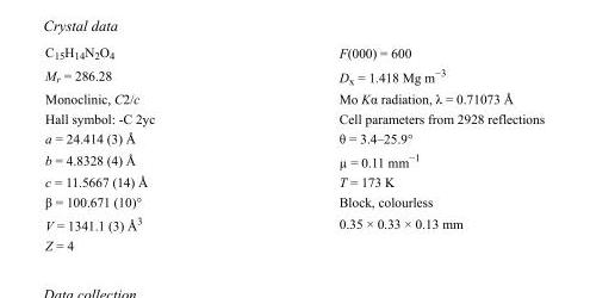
<table><tbody><tr><td>C<sub>15</sub>H<sub>14</sub>N<sub>2</sub>O<sub>4</sub></td><td>F(000) = 600</td></tr><tr><td>M<sub>r</sub> = 286.28</td><td>D<sub>x</sub> = 1.418 Mg m<sup>−3</sup></td></tr><tr><td>Monoclinic, C2/c</td><td>Mo Kα radiation, λ = 0.71073 Å</td></tr><tr><td>Hall symbol: -C 2yc</td><td>Cell parameters from 2928 reflections</td></tr><tr><td>a = 24.414 (3) Å</td><td>θ = 3.4–25.9°</td></tr><tr><td>b = 4.8328 (4) Å</td><td>µ = 0.11 mm<sup>−1</sup></td></tr><tr><td>c = 11.5667 (14) Å</td><td>T = 173 K</td></tr><tr><td>β = 100.671 (10)°</td><td>Block, colourless</td></tr><tr><td>V = 1341.1 (3) Å<sup>3</sup></td><td>0.35 × 0.33 × 0.13 mm</td></tr><tr><td>Z = 4</td><td></td></tr></tbody></table>